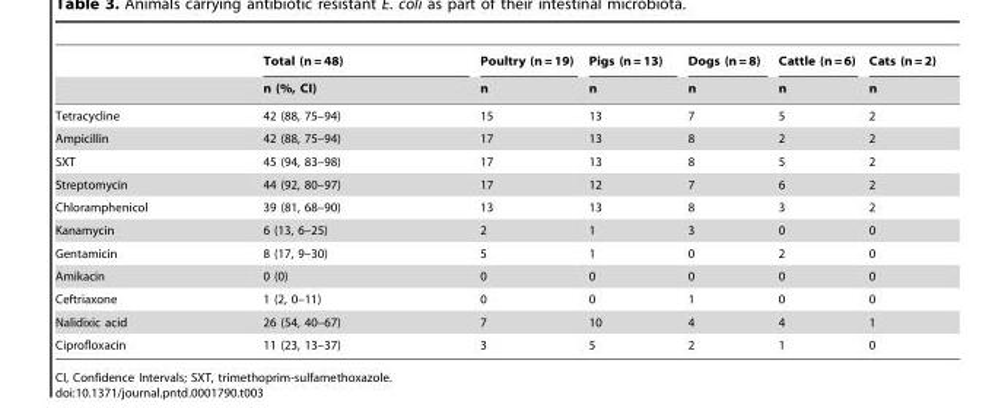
<table><thead><tr><td rowspan="2"></td><td rowspan="2">Total (n = 48) n (%, CI)</td><td rowspan="2">Poultry (n = 19) n</td><td rowspan="2">Pigs (n = 13) n</td><td rowspan="2">Dogs (n = 8) n</td><td rowspan="2">Cattle (n = 6) n</td><td rowspan="2">Cats (n = 2) n</td></tr><tr></tr></thead><tbody><tr><td>Tetracycline</td><td>42 (88, 75–94)</td><td>15</td><td>13</td><td>7</td><td>5</td><td>2</td></tr><tr><td>Ampicillin</td><td>42 (88, 75–94)</td><td>17</td><td>13</td><td>8</td><td>2</td><td>2</td></tr><tr><td>SXT</td><td>45 (94, 83–98)</td><td>17</td><td>13</td><td>8</td><td>5</td><td>2</td></tr><tr><td>Streptomycin</td><td>44 (92, 80–97)</td><td>17</td><td>12</td><td>7</td><td>6</td><td>2</td></tr><tr><td>Chloramphenicol</td><td>39 (81, 68–90)</td><td>13</td><td>13</td><td>8</td><td>3</td><td>2</td></tr><tr><td>Kanamycin</td><td>6 (13, 6–25)</td><td>2</td><td>1</td><td>3</td><td>0</td><td>0</td></tr><tr><td>Gentamicin</td><td>8 (17, 9–30)</td><td>5</td><td>1</td><td>0</td><td>2</td><td>0</td></tr><tr><td>Amikacin</td><td>0 (0)</td><td>0</td><td>0</td><td>0</td><td>0</td><td>0</td></tr><tr><td>Ceftriaxone</td><td>1 (2, 0–11)</td><td>0</td><td>0</td><td>1</td><td>0</td><td>0</td></tr><tr><td>Nalidixic acid</td><td>26 (54, 40–67)</td><td>7</td><td>10</td><td>4</td><td>4</td><td>1</td></tr><tr><td>Ciprofloxacin</td><td>11 (23, 13–37)</td><td>3</td><td>5</td><td>2</td><td>1</td><td>0</td></tr></tbody></table>